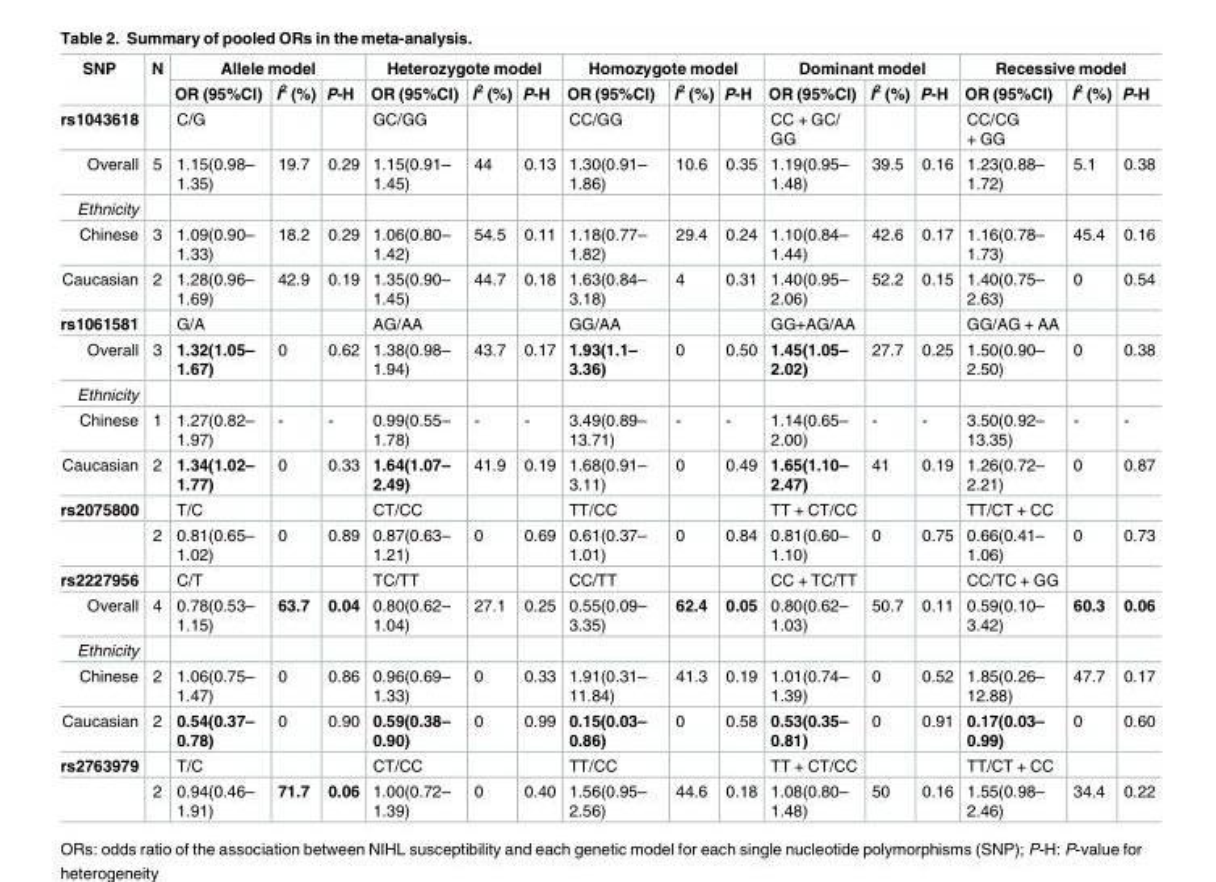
<table><thead><tr><td rowspan="2">SNP</td><td rowspan="2">N</td><td colspan="3">Allele model</td><td colspan="3">Heterozygote model</td><td colspan="3">Homozygote model</td><td colspan="3">Dominant model</td><td colspan="3">Recessive model</td></tr><tr><td>OR (95%CI)</td><td>I<sup>2</sup> (%)</td><td>P-H</td><td>OR (95%CI)</td><td>I<sup>2</sup> (%)</td><td>P-H</td><td>OR (95%CI)</td><td>I<sup>2</sup> (%)</td><td>P-H</td><td>OR (95%CI)</td><td>I<sup>2</sup> (%)</td><td>P-H</td><td>OR (95%CI)</td><td>I<sup>2</sup> (%)</td><td>P-H</td></tr></thead><tbody><tr><td>rs1043618</td><td></td><td>C/G</td><td></td><td></td><td>GC/GG</td><td></td><td></td><td>CC/GG</td><td></td><td></td><td>CC + GC/ GG</td><td></td><td></td><td>CC/CG + GG</td><td></td><td></td></tr><tr><td>Overall</td><td>5</td><td>1.15(0.98– 1.35)</td><td>19.7</td><td>0.29</td><td>1.15(0.91– 1.45)</td><td>44</td><td>0.13</td><td>1.30(0.91– 1.86)</td><td>10.6</td><td>0.35</td><td>1.19(0.95– 1.48)</td><td>39.5</td><td>0.16</td><td>1.23(0.88– 1.72)</td><td>5.1</td><td>0.38</td></tr><tr><td colspan="17">Ethnicity</td></tr><tr><td>Chinese</td><td>3</td><td>1.09(0.90– 1.33)</td><td>18.2</td><td>0.29</td><td>1.06(0.80– 1.42)</td><td>54.5</td><td>0.11</td><td>1.18(0.77– 1.82)</td><td>29.4</td><td>0.24</td><td>1.10(0.84– 1.44)</td><td>42.6</td><td>0.17</td><td>1.16(0.78– 1.73)</td><td>45.4</td><td>0.16</td></tr><tr><td>Caucasian</td><td>2</td><td>1.28(0.96– 1.69)</td><td>42.9</td><td>0.19</td><td>1.35(0.90– 1.45)</td><td>44.7</td><td>0.18</td><td>1.63(0.84– 3.18)</td><td>4</td><td>0.31</td><td>1.40(0.95– 2.06)</td><td>52.2</td><td>0.15</td><td>1.40(0.75– 2.63)</td><td>0</td><td>0.54</td></tr><tr><td>rs1061581</td><td></td><td>G/A</td><td></td><td></td><td>AG/AA</td><td></td><td></td><td>GG/AA</td><td></td><td></td><td>GG+AG/AA</td><td></td><td></td><td>GG/AG + AA</td><td></td><td></td></tr><tr><td>Overall</td><td>3</td><td>1.32(1.05– 1.67)</td><td>0</td><td>0.62</td><td>1.38(0.98– 1.94)</td><td>43.7</td><td>0.17</td><td>1.93(1.1– 3.36)</td><td>0</td><td>0.50</td><td>1.45(1.05– 2.02)</td><td>27.7</td><td>0.25</td><td>1.50(0.90– 2.50)</td><td>0</td><td>0.38</td></tr><tr><td colspan="17">Ethnicity</td></tr><tr><td>Chinese</td><td>1</td><td>1.27(0.82– 1.97)</td><td>-</td><td>-</td><td>0.99(0.55– 1.78)</td><td>-</td><td>-</td><td>3.49(0.89– 13.71)</td><td>-</td><td>-</td><td>1.14(0.65– 2.00)</td><td>-</td><td>-</td><td>3.50(0.92– 13.35)</td><td>-</td><td>-</td></tr><tr><td>Caucasian</td><td>2</td><td>1.34(1.02– 1.77)</td><td>0</td><td>0.33</td><td>1.64(1.07– 2.49)</td><td>41.9</td><td>0.19</td><td>1.68(0.91– 3.11)</td><td>0</td><td>0.49</td><td>1.65(1.10– 2.47)</td><td>41</td><td>0.19</td><td>1.26(0.72– 2.21)</td><td>0</td><td>0.87</td></tr><tr><td rowspan="2">rs2075800</td><td></td><td>T/C</td><td></td><td></td><td>CT/CC</td><td></td><td></td><td>TT/CC</td><td></td><td></td><td>TT + CT/CC</td><td></td><td></td><td>TT/CT + CC</td><td></td><td></td></tr><tr><td>2</td><td>0.81(0.65– 1.02)</td><td>0</td><td>0.89</td><td>0.87(0.63– 1.21)</td><td>0</td><td>0.69</td><td>0.61(0.37– 1.01)</td><td>0</td><td>0.84</td><td>0.81(0.60– 1.10)</td><td>0</td><td>0.75</td><td>0.66(0.41– 1.06)</td><td>0</td><td>0.73</td></tr><tr><td>rs2227956</td><td></td><td>C/T</td><td></td><td></td><td>TC/TT</td><td></td><td></td><td>CC/TT</td><td></td><td></td><td>CC + TC/TT</td><td></td><td></td><td>CC/TC + GG</td><td></td><td></td></tr><tr><td>Overall</td><td>4</td><td>0.78(0.53– 1.15)</td><td>63.7</td><td>0.04</td><td>0.80(0.62– 1.04)</td><td>27.1</td><td>0.25</td><td>0.55(0.09– 3.35)</td><td>62.4</td><td>0.05</td><td>0.80(0.62– 1.03)</td><td>50.7</td><td>0.11</td><td>0.59(0.10– 3.42)</td><td>60.3</td><td>0.06</td></tr><tr><td colspan="17">Ethnicity</td></tr><tr><td>Chinese</td><td>2</td><td>1.06(0.75– 1.47)</td><td>0</td><td>0.86</td><td>0.96(0.69– 1.33)</td><td>0</td><td>0.33</td><td>1.91(0.31– 11.84)</td><td>41.3</td><td>0.19</td><td>1.01(0.74– 1.39)</td><td>0</td><td>0.52</td><td>1.85(0.26– 12.88)</td><td>47.7</td><td>0.17</td></tr><tr><td>Caucasian</td><td>2</td><td>0.54(0.37– 0.78)</td><td>0</td><td>0.90</td><td>0.59(0.38– 0.90)</td><td>0</td><td>0.99</td><td>0.15(0.03– 0.86)</td><td>0</td><td>0.58</td><td>0.53(0.35– 0.81)</td><td>0</td><td>0.91</td><td>0.17(0.03– 0.99)</td><td>0</td><td>0.60</td></tr><tr><td rowspan="2">rs2763979</td><td></td><td>T/C</td><td></td><td></td><td>CT/CC</td><td></td><td></td><td>TT/CC</td><td></td><td></td><td>TT + CT/CC</td><td></td><td></td><td>TT/CT + CC</td><td></td><td></td></tr><tr><td>2</td><td>0.94(0.46– 1.91)</td><td>71.7</td><td>0.06</td><td>1.00(0.72– 1.39)</td><td>0</td><td>0.40</td><td>1.56(0.95– 2.56)</td><td>44.6</td><td>0.18</td><td>1.08(0.80– 1.48)</td><td>50</td><td>0.16</td><td>1.55(0.98– 2.46)</td><td>34.4</td><td>0.22</td></tr></tbody></table>